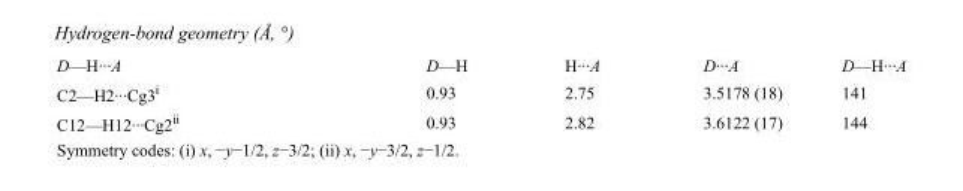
<table><tbody><tr><td>D—H···A</td><td>D—H</td><td>H···A</td><td>D···A</td><td>D—H···A</td></tr><tr><td>C2—H2···Cg3<sup>i</sup></td><td>0.93</td><td>2.75</td><td>3.5178 (18)</td><td>141</td></tr><tr><td>C12—H12···Cg2<sup>ii</sup></td><td>0.93</td><td>2.82</td><td>3.6122 (17)</td><td>144</td></tr></tbody></table>